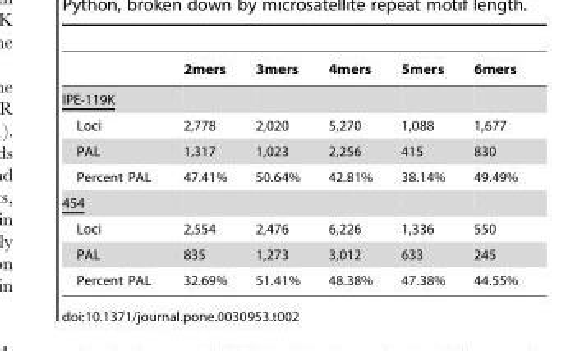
<table><thead><tr><td></td><td>2mers</td><td>3mers</td><td>4mers</td><td>5mers</td><td>6mers</td></tr></thead><tbody><tr><td colspan="6">IPE-119K</td></tr><tr><td>Loci</td><td>2,778</td><td>2,020</td><td>5,270</td><td>1,088</td><td>1,677</td></tr><tr><td>PAL</td><td>1,317</td><td>1,023</td><td>2,256</td><td>415</td><td>830</td></tr><tr><td>Percent PAL</td><td>47.41%</td><td>50.64%</td><td>42.81%</td><td>38.14%</td><td>49.49%</td></tr><tr><td colspan="6">454</td></tr><tr><td>Loci</td><td>2,554</td><td>2,476</td><td>6,226</td><td>1,336</td><td>550</td></tr><tr><td>PAL</td><td>835</td><td>1,273</td><td>3,012</td><td>633</td><td>245</td></tr><tr><td>Percent PAL</td><td>32.69%</td><td>51.41%</td><td>48.38%</td><td>47.38%</td><td>44.55%</td></tr></tbody></table>